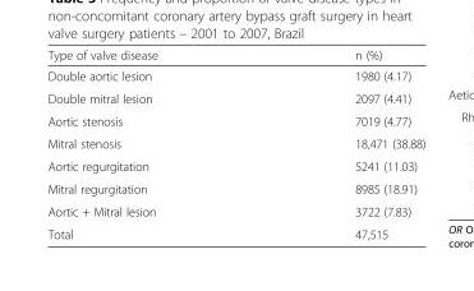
<table><thead><tr><td>Type of valve disease</td><td>n (%)</td></tr></thead><tbody><tr><td>Double aortic lesion</td><td>1980 (4.17)</td></tr><tr><td>Double mitral lesion</td><td>2097 (4.41)</td></tr><tr><td>Aortic stenosis</td><td>7019 (4.77)</td></tr><tr><td>Mitral stenosis</td><td>18,471 (38.88)</td></tr><tr><td>Aortic regurgitation</td><td>5241 (11.03)</td></tr><tr><td>Mitral regurgitation</td><td>8985 (18.91)</td></tr><tr><td>Aortic + Mitral lesion</td><td>3722 (7.83)</td></tr><tr><td>Total</td><td>47,515</td></tr></tbody></table>